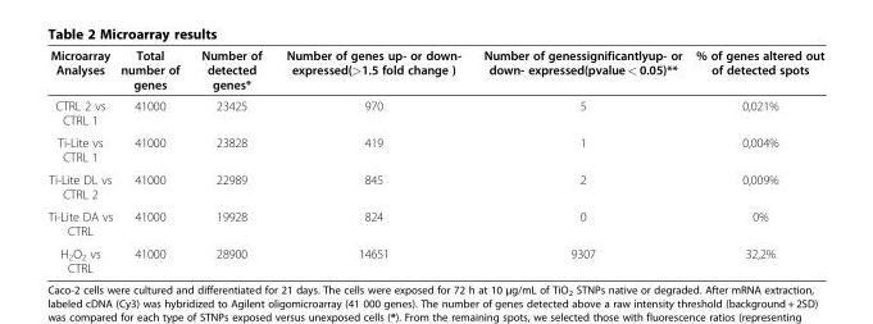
<table><thead><tr><td>Microarray Analyses</td><td>Total number of genes</td><td>Number of detected genes*</td><td>Number of genes up- or down- expressed(&gt;1.5 fold change )</td><td>Number of genessignificantlyup- or down- expressed(pvalue &lt; 0.05)**</td><td>% of genes altered out of detected spots</td></tr></thead><tbody><tr><td>CTRL 2 vs CTRL 1</td><td>41000</td><td>23425</td><td>970</td><td>5</td><td>0,021%</td></tr><tr><td>Ti-Lite vs CTRL 1</td><td>41000</td><td>23828</td><td>419</td><td>1</td><td>0,004%</td></tr><tr><td>Ti-Lite DL vs CTRL 2</td><td>41000</td><td>22989</td><td>845</td><td>2</td><td>0,009%</td></tr><tr><td>Ti-Lite DA vs CTRL</td><td>41000</td><td>19928</td><td>824</td><td>0</td><td>0%</td></tr><tr><td>H<sub>2</sub>O<sub>2</sub> vs CTRL</td><td>41000</td><td>28900</td><td>14651</td><td>9307</td><td>32,2%</td></tr></tbody></table>